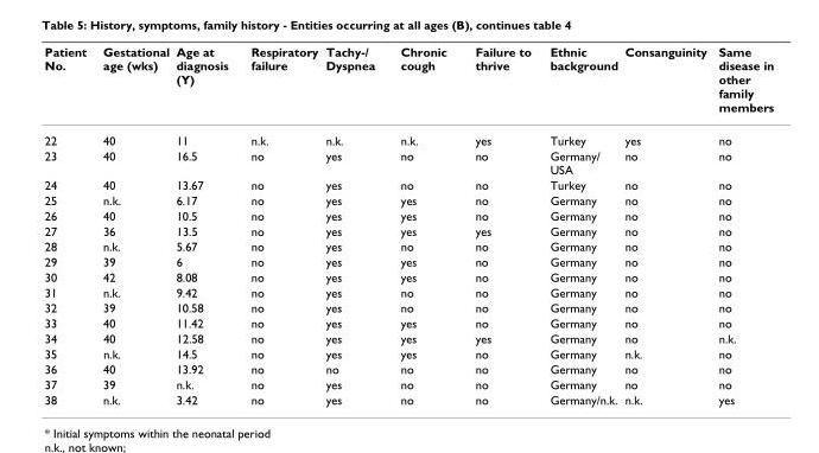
<table><thead><tr><td>Patient No.</td><td>Gestational age (wks)</td><td>Age at diagnosis (Y)</td><td>Respiratory failure</td><td>Tachy-/ Dyspnea</td><td>Chronic cough</td><td>Failure to thrive</td><td>Ethnic background</td><td>Consanguinity</td><td>Same disease in other family members</td></tr></thead><tbody><tr><td>22</td><td>40</td><td>11</td><td>n.k.</td><td>n.k.</td><td>n.k.</td><td>yes</td><td>Turkey</td><td>yes</td><td>no</td></tr><tr><td>23</td><td>40</td><td>16.5</td><td>no</td><td>yes</td><td>no</td><td>no</td><td>Germany/ USA</td><td>no</td><td>no</td></tr><tr><td>24</td><td>40</td><td>13.67</td><td>no</td><td>yes</td><td>no</td><td>no</td><td>Turkey</td><td>no</td><td>no</td></tr><tr><td>25</td><td>n.k.</td><td>6.17</td><td>no</td><td>yes</td><td>yes</td><td>no</td><td>Germany</td><td>no</td><td>no</td></tr><tr><td>26</td><td>40</td><td>10.5</td><td>no</td><td>yes</td><td>yes</td><td>no</td><td>Germany</td><td>no</td><td>no</td></tr><tr><td>27</td><td>36</td><td>13.5</td><td>no</td><td>yes</td><td>yes</td><td>yes</td><td>Germany</td><td>no</td><td>no</td></tr><tr><td>28</td><td>n.k.</td><td>5.67</td><td>no</td><td>yes</td><td>no</td><td>no</td><td>Germany</td><td>no</td><td>no</td></tr><tr><td>29</td><td>39</td><td>6</td><td>no</td><td>yes</td><td>yes</td><td>no</td><td>Germany</td><td>no</td><td>no</td></tr><tr><td>30</td><td>42</td><td>8.08</td><td>no</td><td>yes</td><td>yes</td><td>no</td><td>Germany</td><td>no</td><td>no</td></tr><tr><td>31</td><td>n.k.</td><td>9.42</td><td>no</td><td>yes</td><td>no</td><td>no</td><td>Germany</td><td>no</td><td>no</td></tr><tr><td>32</td><td>39</td><td>10.58</td><td>no</td><td>yes</td><td>no</td><td>no</td><td>Germany</td><td>no</td><td>no</td></tr><tr><td>33</td><td>40</td><td>11.42</td><td>no</td><td>yes</td><td>yes</td><td>no</td><td>Germany</td><td>no</td><td>no</td></tr><tr><td>34</td><td>40</td><td>12.58</td><td>no</td><td>yes</td><td>yes</td><td>yes</td><td>Germany</td><td>no</td><td>n.k.</td></tr><tr><td>35</td><td>n.k.</td><td>14.5</td><td>no</td><td>yes</td><td>yes</td><td>no</td><td>Germany</td><td>n.k.</td><td>no</td></tr><tr><td>36</td><td>40</td><td>13.92</td><td>no</td><td>no</td><td>no</td><td>no</td><td>Germany</td><td>no</td><td>no</td></tr><tr><td>37</td><td>39</td><td>n.k.</td><td>no</td><td>yes</td><td>no</td><td>no</td><td>Germany</td><td>no</td><td>no</td></tr><tr><td>38</td><td>n.k.</td><td>3.42</td><td>no</td><td>yes</td><td>no</td><td>no</td><td>Germany/n.k.</td><td>n.k.</td><td>yes</td></tr></tbody></table>